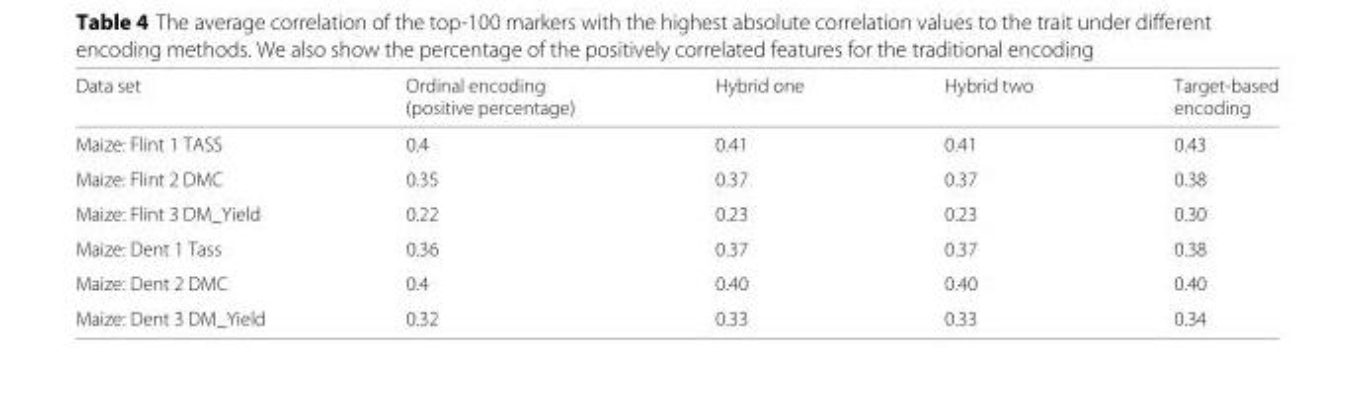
<table><thead><tr><td rowspan="2">Data set</td><td rowspan="2">Ordinal encoding (positive percentage)</td><td rowspan="2">Hybrid one</td><td rowspan="2">Hybrid two</td><td rowspan="2">Target-based encoding</td></tr><tr></tr></thead><tbody><tr><td>Maize: Flint 1 TASS</td><td>0.4</td><td>0.41</td><td>0.41</td><td>0.43</td></tr><tr><td>Maize: Flint 2 DMC</td><td>0.35</td><td>0.37</td><td>0.37</td><td>0.38</td></tr><tr><td>Maize: Flint 3 DM_Yield</td><td>0.22</td><td>0.23</td><td>0.23</td><td>0.30</td></tr><tr><td>Maize: Dent 1 Tass</td><td>0.36</td><td>0.37</td><td>0.37</td><td>0.38</td></tr><tr><td>Maize: Dent 2 DMC</td><td>0.4</td><td>0.40</td><td>0.40</td><td>0.40</td></tr><tr><td>Maize: Dent 3 DM_Yield</td><td>0.32</td><td>0.33</td><td>0.33</td><td>0.34</td></tr></tbody></table>